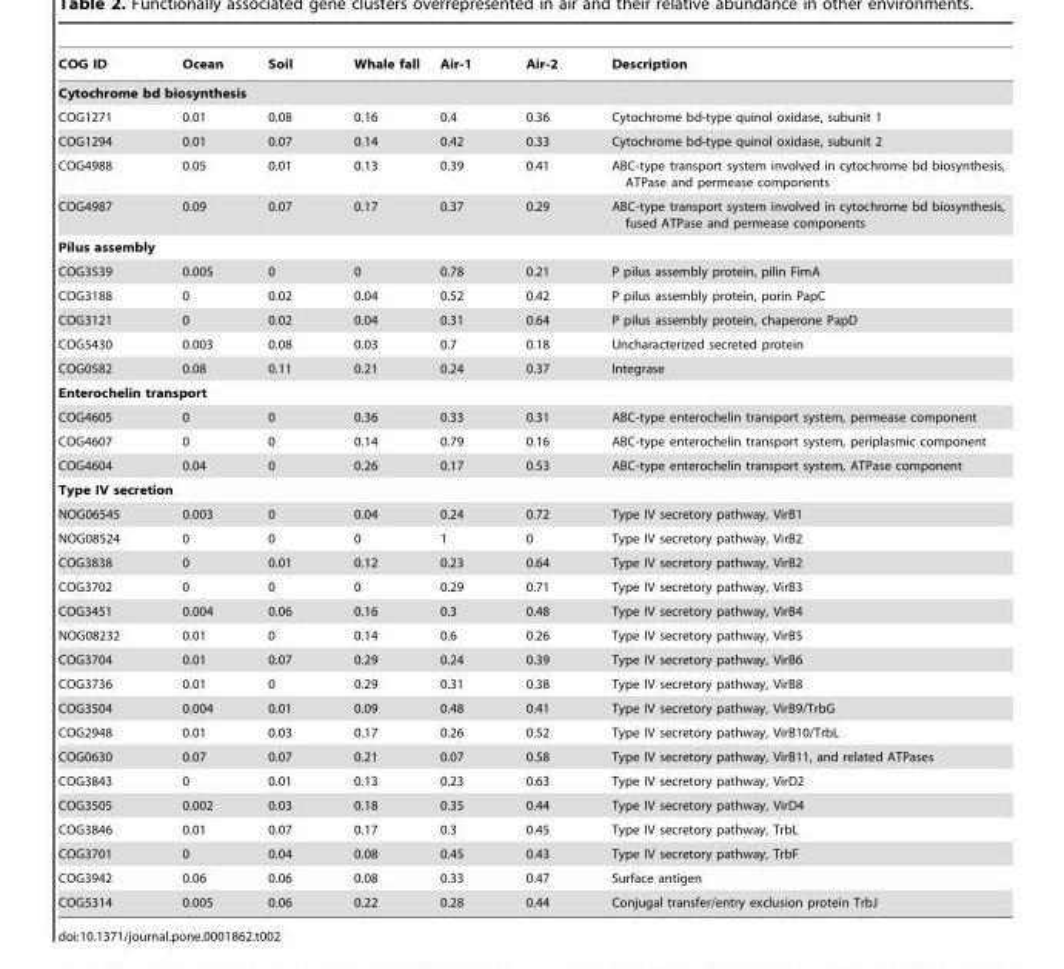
<table><thead><tr><td>COG ID</td><td>Ocean</td><td>Soil</td><td>Whale fall</td><td>Air-1</td><td>Air-2</td><td>Description</td></tr></thead><tbody><tr><td colspan="7">Cytochrome bd biosynthesis</td></tr><tr><td>COG1271</td><td>0.01</td><td>0.08</td><td>0.16</td><td>0.4</td><td>0.36</td><td>Cytochrome bd-type quinol oxidase, subunit 1</td></tr><tr><td>COG1294</td><td>0.01</td><td>0.07</td><td>0.14</td><td>0.42</td><td>0.33</td><td>Cytochrome bd-type quinol oxidase, subunit 2</td></tr><tr><td>COG4988</td><td>0.05</td><td>0.01</td><td>0.13</td><td>0.39</td><td>0.41</td><td>ABC-type transport system involved in cytochrome bd biosynthesis, ATPase and permease components</td></tr><tr><td>COG4987</td><td>0.09</td><td>0.07</td><td>0.17</td><td>0.37</td><td>0.29</td><td>ABC-type transport system involved in cytochrome bd biosynthesis, fused ATPase and permease components</td></tr><tr><td colspan="7">Pilus assembly</td></tr><tr><td>COG3539</td><td>0.005</td><td>0</td><td>0</td><td>0.78</td><td>0.21</td><td>P pilus assembly protein, pilin FimA</td></tr><tr><td>COG3188</td><td>0</td><td>0.02</td><td>0.04</td><td>0.52</td><td>0.42</td><td>P pilus assembly protein, porin PapC</td></tr><tr><td>COG3121</td><td>0</td><td>0.02</td><td>0.04</td><td>0.31</td><td>0.64</td><td>P pilus assembly protein, chaperone PapD</td></tr><tr><td>COG5430</td><td>0.003</td><td>0.08</td><td>0.03</td><td>0.7</td><td>0.18</td><td>Uncharacterized secreted protein</td></tr><tr><td>COG0582</td><td>0.08</td><td>0.11</td><td>0.21</td><td>0.24</td><td>0.37</td><td>Integrase</td></tr><tr><td colspan="7">Enterochelin transport</td></tr><tr><td>COG4605</td><td>0</td><td>0</td><td>0.36</td><td>0.33</td><td>0.31</td><td>ABC-type enterochelin transport system, permease component</td></tr><tr><td>COG4607</td><td>0</td><td>0</td><td>0.14</td><td>0.79</td><td>0.16</td><td>ABC-type enterochelin transport system, periplasmic component</td></tr><tr><td>COG4604</td><td>0.04</td><td>0</td><td>0.26</td><td>0.17</td><td>0.53</td><td>ABC-type enterochelin transport system, ATPase component</td></tr><tr><td colspan="7">Type IV secretion</td></tr><tr><td>NOG06545</td><td>0.003</td><td>0</td><td>0.04</td><td>0.24</td><td>0.72</td><td>Type IV secretory pathway, VirB1</td></tr><tr><td>NOG08524</td><td>0</td><td>0</td><td>0</td><td>1</td><td>0</td><td>Type IV secretory pathway, VirB2</td></tr><tr><td>COG3838</td><td>0</td><td>0.01</td><td>0.12</td><td>0.23</td><td>0.64</td><td>Type IV secretory pathway, VirB2</td></tr><tr><td>COG3702</td><td>0</td><td>0</td><td>0</td><td>0.29</td><td>0.71</td><td>Type IV secretory pathway, VirB3</td></tr><tr><td>COG3451</td><td>0.004</td><td>0.06</td><td>0.16</td><td>0.3</td><td>0.48</td><td>Type IV secretory pathway, VirB4</td></tr><tr><td>NOG08232</td><td>0.01</td><td>0</td><td>0.14</td><td>0.6</td><td>0.26</td><td>Type IV secretory pathway, VirB5</td></tr><tr><td>COG3704</td><td>0.01</td><td>0.07</td><td>0.29</td><td>0.24</td><td>0.39</td><td>Type IV secretory pathway, VirB6</td></tr><tr><td>COG3736</td><td>0.01</td><td>0</td><td>0.29</td><td>0.31</td><td>0.38</td><td>Type IV secretory pathway, VirB8</td></tr><tr><td>COG3504</td><td>0.004</td><td>0.01</td><td>0.09</td><td>0.48</td><td>0.41</td><td>Type IV secretory pathway, VirB9/TrbG</td></tr><tr><td>COG2948</td><td>0.01</td><td>0.03</td><td>0.17</td><td>0.26</td><td>0.52</td><td>Type IV secretory pathway, VirB10/TrbL</td></tr><tr><td>COG0630</td><td>0.07</td><td>0.07</td><td>0.21</td><td>0.07</td><td>0.58</td><td>Type IV secretory pathway, VirB11, and related ATPases</td></tr><tr><td>COG3843</td><td>0</td><td>0.01</td><td>0.13</td><td>0.23</td><td>0.63</td><td>Type IV secretory pathway, VirD2</td></tr><tr><td>COG3505</td><td>0.002</td><td>0.03</td><td>0.18</td><td>0.35</td><td>0.44</td><td>Type IV secretory pathway, VirD4</td></tr><tr><td>COG3846</td><td>0.01</td><td>0.07</td><td>0.17</td><td>0.3</td><td>0.45</td><td>Type IV secretory pathway, TrbL</td></tr><tr><td>COG3701</td><td>0</td><td>0.04</td><td>0.08</td><td>0.45</td><td>0.43</td><td>Type IV secretory pathway, TrbF</td></tr><tr><td>COG3942</td><td>0.06</td><td>0.06</td><td>0.08</td><td>0.33</td><td>0.47</td><td>Surface antigen</td></tr><tr><td>COG5314</td><td>0.005</td><td>0.06</td><td>0.22</td><td>0.28</td><td>0.44</td><td>Conjugal transfer/entry exclusion protein TrbJ</td></tr></tbody></table>